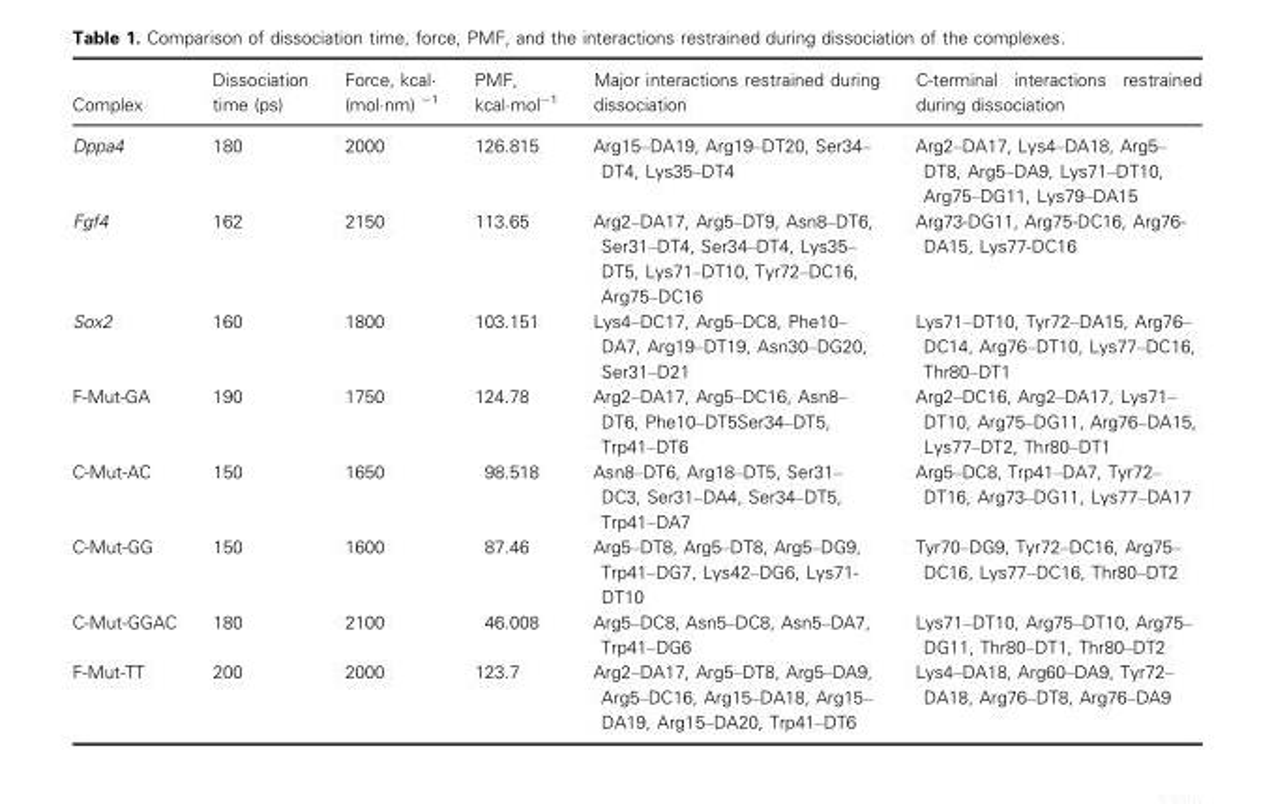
<table><thead><tr><td>Complex</td><td>Dissociation time (ps)</td><td>Force, kcal· (mol·nm) <sup>−1</sup></td><td>PMF, kcal·mol<sup>−1</sup></td><td>Major interactions restrained during dissociation</td><td>C-terminal interactions restrained during dissociation</td></tr></thead><tbody><tr><td>Dppa4</td><td>180</td><td>2000</td><td>126.815</td><td>Arg15–DA19, Arg19–DT20, Ser34– DT4, Lys35–DT4</td><td>Arg2–DA17, Lys4–DA18, Arg5– DT8, Arg5–DA9, Lys71–DT10, Arg75–DG11, Lys79–DA15</td></tr><tr><td>Fgf4</td><td>162</td><td>2150</td><td>113.65</td><td>Arg2–DA17, Arg5–DT9, Asn8–DT6, Ser31–DT4, Ser34–DT4, Lys35– DT5, Lys71–DT10, Tyr72–DC16, Arg75–DC16</td><td>Arg73-DG11, Arg75-DC16, Arg76- DA15, Lys77-DC16</td></tr><tr><td>Sox2</td><td>160</td><td>1800</td><td>103.151</td><td>Lys4–DC17, Arg5–DC8, Phe10– DA7, Arg19–DT19, Asn30–DG20, Ser31–D21</td><td>Lys71–DT10, Tyr72–DA15, Arg76– DC14, Arg76–DT10, Lys77–DC16, Thr80–DT1</td></tr><tr><td>F-Mut-GA</td><td>190</td><td>1750</td><td>124.78</td><td>Arg2–DA17, Arg5–DC16, Asn8– DT6, Phe10–DT5Ser34–DT5, Trp41–DT6</td><td>Arg2–DC16, Arg2–DA17, Lys71– DT10, Arg75–DG11, Arg76–DA15, Lys77–DT2, Thr80–DT1</td></tr><tr><td>C-Mut-AC</td><td>150</td><td>1650</td><td>98.518</td><td>Asn8–DT6, Arg18–DT5, Ser31– DC3, Ser31–DA4, Ser34–DT5, Trp41–DA7</td><td>Arg5–DC8, Trp41–DA7, Tyr72– DT16, Arg73–DG11, Lys77–DA17</td></tr><tr><td>C-Mut-GG</td><td>150</td><td>1600</td><td>87.46</td><td>Arg5–DT8, Arg5–DT8, Arg5–DG9, Trp41–DG7, Lys42–DG6, Lys71- DT10</td><td>Tyr70–DG9, Tyr72–DC16, Arg75– DC16, Lys77–DC16, Thr80–DT2</td></tr><tr><td>C-Mut-GGAC</td><td>180</td><td>2100</td><td>46.008</td><td>Arg5–DC8, Asn5–DC8, Asn5–DA7, Trp41–DG6</td><td>Lys71–DT10, Arg75–DT10, Arg75– DG11, Thr80–DT1, Thr80–DT2</td></tr><tr><td>F-Mut-TT</td><td>200</td><td>2000</td><td>123.7</td><td>Arg2–DA17, Arg5–DT8, Arg5–DA9, Arg5–DC16, Arg15–DA18, Arg15– DA19, Arg15–DA20, Trp41–DT6</td><td>Lys4–DA18, Arg60–DA9, Tyr72– DA18, Arg76–DT8, Arg76–DA9</td></tr></tbody></table>